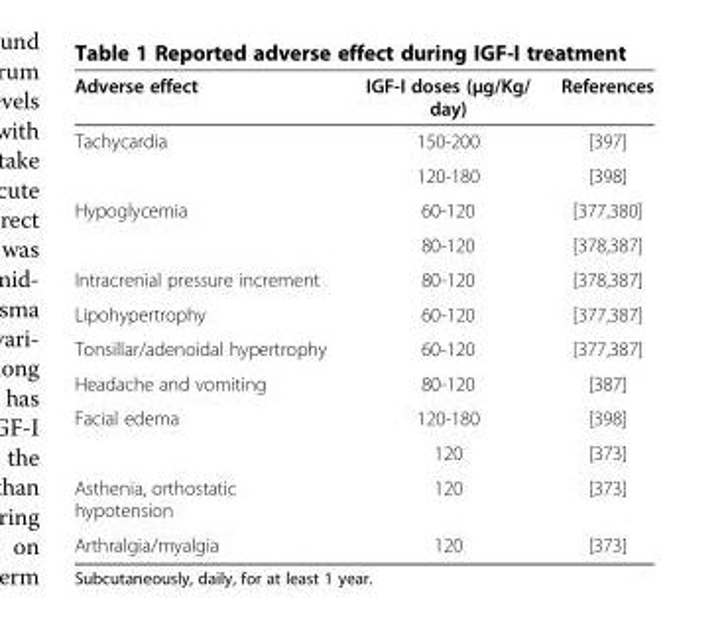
<table><thead><tr><td>Adverse effect</td><td>IGF-I doses (μg/Kg/ day)</td><td>References</td></tr></thead><tbody><tr><td rowspan="2">Tachycardia</td><td>150-200</td><td>[397]</td></tr><tr><td>120-180</td><td>[398]</td></tr><tr><td rowspan="2">Hypoglycemia</td><td>60-120</td><td>[377,380]</td></tr><tr><td>80-120</td><td>[378,387]</td></tr><tr><td>Intracrenial pressure increment</td><td>80-120</td><td>[378,387]</td></tr><tr><td>Lipohypertrophy</td><td>60-120</td><td>[377,387]</td></tr><tr><td>Tonsillar/adenoidal hypertrophy</td><td>60-120</td><td>[377,387]</td></tr><tr><td>Headache and vomiting</td><td>80-120</td><td>[387]</td></tr><tr><td rowspan="2">Facial edema</td><td>120-180</td><td>[398]</td></tr><tr><td>120</td><td>[373]</td></tr><tr><td>Asthenia, orthostatic hypotension</td><td>120</td><td>[373]</td></tr><tr><td>Arthralgia/myalgia</td><td>120</td><td>[373]</td></tr></tbody></table>